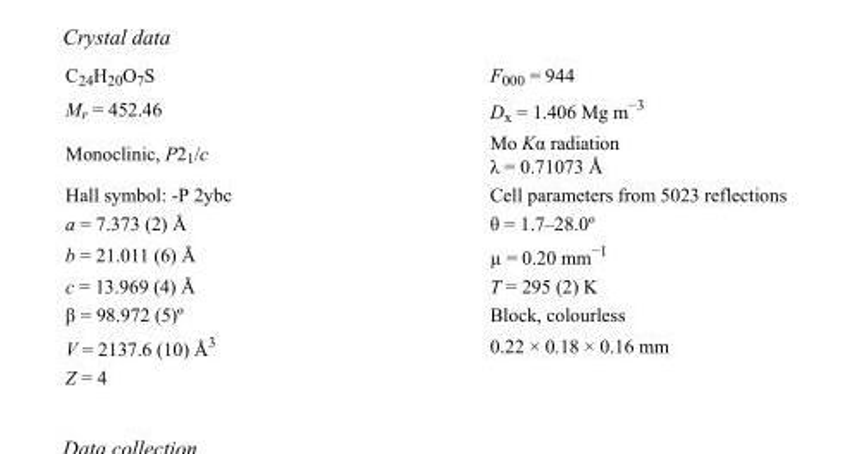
<table><tbody><tr><td>C<sub>24</sub>H<sub>20</sub>O<sub>7</sub>S</td><td>F<sub>000</sub> = 944</td></tr><tr><td>M<sub>r</sub> = 452.46</td><td>D<sub>x</sub> = 1.406 Mg m<sup>−3</sup></td></tr><tr><td>Monoclinic, P2<sub>1</sub>/c</td><td>Mo Kα radiation λ = 0.71073 Å</td></tr><tr><td>Hall symbol: -P 2ybc</td><td>Cell parameters from 5023 reflections</td></tr><tr><td>a = 7.373 (2) Å</td><td>θ = 1.7–28.0º</td></tr><tr><td>b = 21.011 (6) Å</td><td>µ = 0.20 mm<sup>−1</sup></td></tr><tr><td>c = 13.969 (4) Å</td><td>T = 295 (2) K</td></tr><tr><td>β = 98.972 (5)º</td><td>Block, colourless</td></tr><tr><td>V = 2137.6 (10) Å<sup>3</sup></td><td>0.22 × 0.18 × 0.16 mm</td></tr><tr><td>Z = 4</td><td></td></tr></tbody></table>